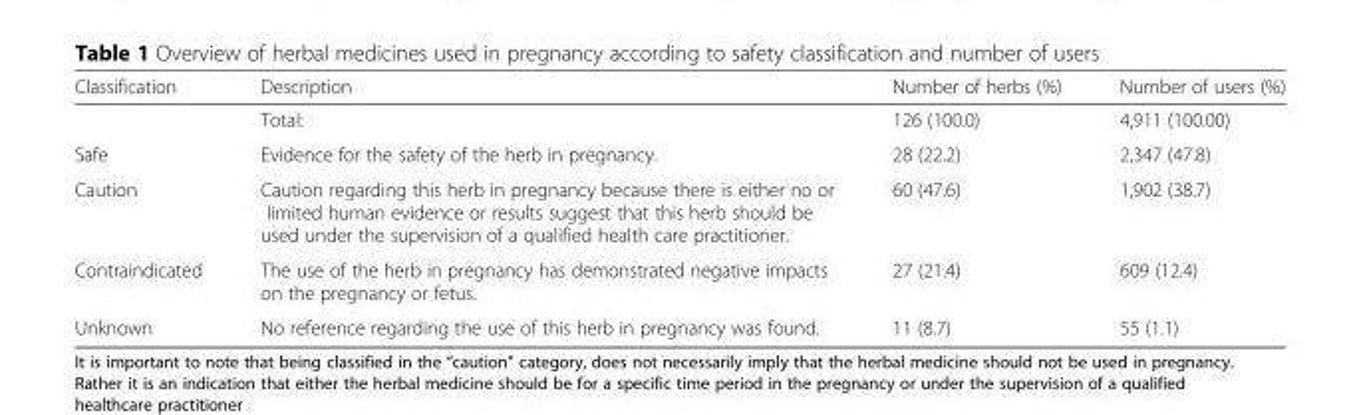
<table><thead><tr><td>Classification</td><td>Description</td><td>Number of herbs (%)</td><td>Number of users (%)</td></tr></thead><tbody><tr><td></td><td>Total:</td><td>126 (100.0)</td><td>4,911 (100.00)</td></tr><tr><td>Safe</td><td>Evidence for the safety of the herb in pregnancy.</td><td>28 (22.2)</td><td>2,347 (47.8)</td></tr><tr><td>Caution</td><td>Caution regarding this herb in pregnancy because there is either no or limited human evidence or results suggest that this herb should be used under the supervision of a qualified health care practitioner.</td><td>60 (47.6)</td><td>1,902 (38.7)</td></tr><tr><td>Contraindicated</td><td>The use of the herb in pregnancy has demonstrated negative impacts on the pregnancy or fetus.</td><td>27 (21.4)</td><td>609 (12.4)</td></tr><tr><td>Unknown</td><td>No reference regarding the use of this herb in pregnancy was found.</td><td>11 (8.7)</td><td>55 (1.1)</td></tr></tbody></table>